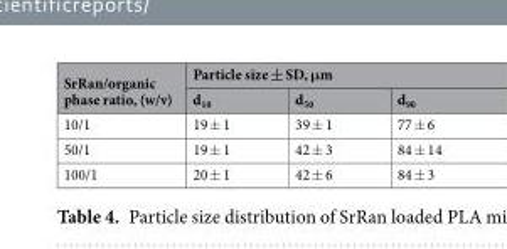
<table><thead><tr><td rowspan="2">SrRan/organic phase ratio, (w/v)</td><td colspan="3">Particle size ± SD, μm</td></tr><tr><td>d<sub>10</sub></td><td>d<sub>50</sub></td><td>d<sub>90</sub></td></tr></thead><tbody><tr><td>10/1</td><td>19 ± 1</td><td>39 ± 1</td><td>77 ± 6</td></tr><tr><td>50/1</td><td>19 ± 1</td><td>42 ± 3</td><td>84 ± 14</td></tr><tr><td>100/1</td><td>20 ± 1</td><td>42 ± 6</td><td>84 ± 3</td></tr></tbody></table>